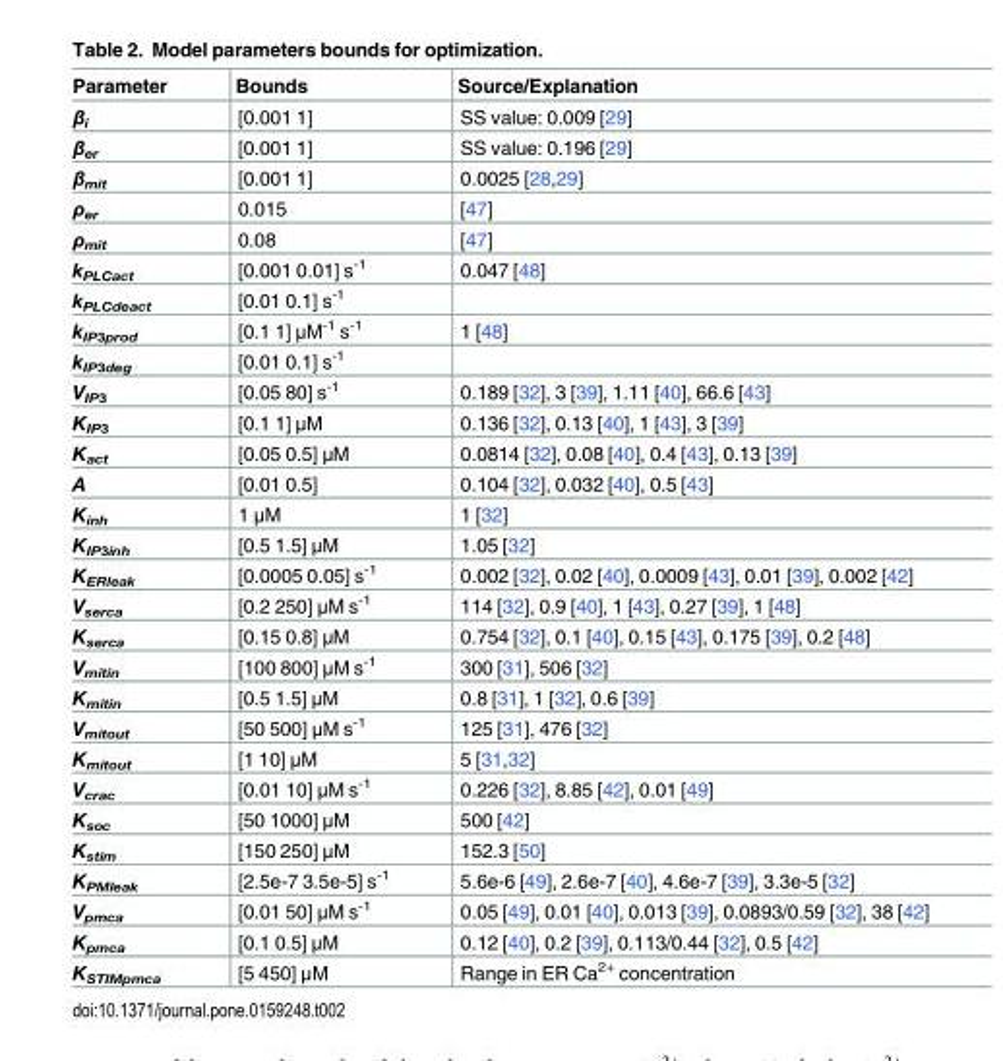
<table><thead><tr><td>Parameter</td><td>Bounds</td><td>Source/Explanation</td></tr></thead><tbody><tr><td>β<sub>i</sub></td><td>[0.001 1]</td><td>SS value: 0.009 [29]</td></tr><tr><td>β<sub>er</sub></td><td>[0.001 1]</td><td>SS value: 0.196 [29]</td></tr><tr><td>β<sub>mit</sub></td><td>[0.001 1]</td><td>0.0025 [28,29]</td></tr><tr><td>ρ<sub>er</sub></td><td>0.015</td><td>[47]</td></tr><tr><td>ρ<sub>mit</sub></td><td>0.08</td><td>[47]</td></tr><tr><td>k<sub>PLCact</sub></td><td>[0.001 0.01] s<sup>-1</sup></td><td>0.047 [48]</td></tr><tr><td>k<sub>PLCdeact</sub></td><td>[0.01 0.1] s<sup>-1</sup></td><td></td></tr><tr><td>k<sub>IP3prod</sub></td><td>[0.1 1] μM<sup>-1</sup> s<sup>-1</sup></td><td>1 [48]</td></tr><tr><td>k<sub>IP3deg</sub></td><td>[0.01 0.1] s<sup>-1</sup></td><td></td></tr><tr><td>V<sub>IP3</sub></td><td>[0.05 80] s<sup>-1</sup></td><td>0.189 [32], 3 [39], 1.11 [40], 66.6 [43]</td></tr><tr><td>K<sub>IP3</sub></td><td>[0.1 1] μM</td><td>0.136 [32], 0.13 [40], 1 [43], 3 [39]</td></tr><tr><td>K<sub>act</sub></td><td>[0.05 0.5] μM</td><td>0.0814 [32], 0.08 [40], 0.4 [43], 0.13 [39]</td></tr><tr><td>A</td><td>[0.01 0.5]</td><td>0.104 [32], 0.032 [40], 0.5 [43]</td></tr><tr><td>K<sub>inh</sub></td><td>1 μM</td><td>1 [32]</td></tr><tr><td>K<sub>IP3inh</sub></td><td>[0.5 1.5] μM</td><td>1.05 [32]</td></tr><tr><td>K<sub>ERleak</sub></td><td>[0.0005 0.05] s<sup>-1</sup></td><td>0.002 [32], 0.02 [40], 0.0009 [43], 0.01 [39], 0.002 [42]</td></tr><tr><td>V<sub>serca</sub></td><td>[0.2 250] μM s<sup>-1</sup></td><td>114 [32], 0.9 [40], 1 [43], 0.27 [39], 1 [48]</td></tr><tr><td>K<sub>serca</sub></td><td>[0.15 0.8] μM</td><td>0.754 [32], 0.1 [40], 0.15 [43], 0.175 [39], 0.2 [48]</td></tr><tr><td>V<sub>mitin</sub></td><td>[100 800] μM s<sup>-1</sup></td><td>300 [31], 506 [32]</td></tr><tr><td>K<sub>mitin</sub></td><td>[0.5 1.5] μM</td><td>0.8 [31], 1 [32], 0.6 [39]</td></tr><tr><td>V<sub>mitout</sub></td><td>[50 500] μM s<sup>-1</sup></td><td>125 [31], 476 [32]</td></tr><tr><td>K<sub>mitout</sub></td><td>[1 10] μM</td><td>5 [31,32]</td></tr><tr><td>V<sub>crac</sub></td><td>[0.01 10] μM s<sup>-1</sup></td><td>0.226 [32], 8.85 [42], 0.01 [49]</td></tr><tr><td>K<sub>soc</sub></td><td>[50 1000] μM</td><td>500 [42]</td></tr><tr><td>K<sub>stim</sub></td><td>[150 250] μM</td><td>152.3 [50]</td></tr><tr><td>K<sub>PMleak</sub></td><td>[2.5e-7 3.5e-5] s<sup>-1</sup></td><td>5.6e-6 [49], 2.6e-7 [40], 4.6e-7 [39], 3.3e-5 [32]</td></tr><tr><td>V<sub>pmca</sub></td><td>[0.01 50] μM s<sup>-1</sup></td><td>0.05 [49], 0.01 [40], 0.013 [39], 0.0893/0.59 [32], 38 [42]</td></tr><tr><td>K<sub>pmca</sub></td><td>[0.1 0.5] μM</td><td>0.12 [40], 0.2 [39], 0.113/0.44 [32], 0.5 [42]</td></tr><tr><td>K<sub>STIMpmca</sub></td><td>[5 450] μM</td><td>Range in ER Ca<sup>2+</sup> concentration</td></tr></tbody></table>